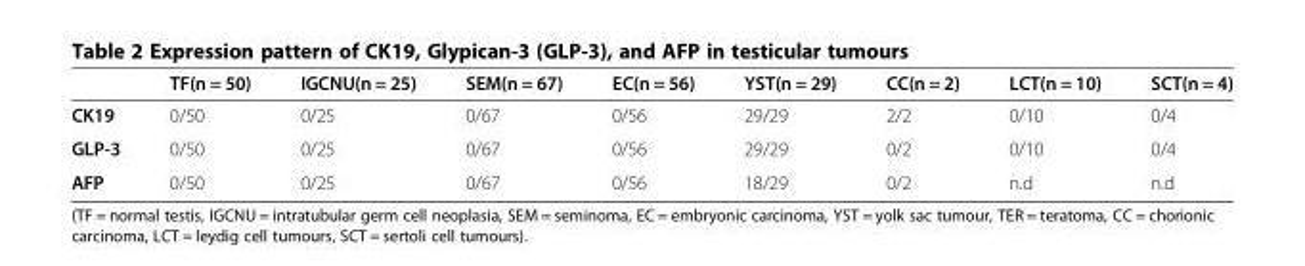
<table><thead><tr><td></td><td>TF(n = 50)</td><td>IGCNU(n = 25)</td><td>SEM(n = 67)</td><td>EC(n = 56)</td><td>YST(n = 29)</td><td>CC(n = 2)</td><td>LCT(n = 10)</td><td>SCT(n = 4)</td></tr></thead><tbody><tr><td>CK19</td><td>0/50</td><td>0/25</td><td>0/67</td><td>0/56</td><td>29/29</td><td>2/2</td><td>0/10</td><td>0/4</td></tr><tr><td>GLP-3</td><td>0/50</td><td>0/25</td><td>0/67</td><td>0/56</td><td>29/29</td><td>0/2</td><td>0/10</td><td>0/4</td></tr><tr><td>AFP</td><td>0/50</td><td>0/25</td><td>0/67</td><td>0/56</td><td>18/29</td><td>0/2</td><td>n.d</td><td>n.d</td></tr></tbody></table>